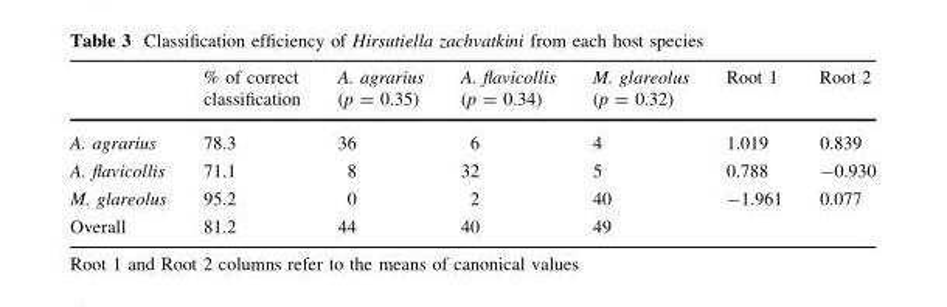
<table><thead><tr><td></td><td>% of correct classification</td><td>A. agrarius (p = 0.35)</td><td>A. flavicollis (p = 0.34)</td><td>M. glareolus (p = 0.32)</td><td>Root 1</td><td>Root 2</td></tr></thead><tbody><tr><td>A. agrarius</td><td>78.3</td><td>36</td><td>6</td><td>4</td><td>1.019</td><td>0.839</td></tr><tr><td>A. flavicollis</td><td>71.1</td><td>8</td><td>32</td><td>5</td><td>0.788</td><td>-0.930</td></tr><tr><td>M. glareolus</td><td>95.2</td><td>0</td><td>2</td><td>40</td><td>-1.961</td><td>0.077</td></tr><tr><td>Overall</td><td>81.2</td><td>44</td><td>40</td><td>49</td><td></td><td></td></tr></tbody></table>